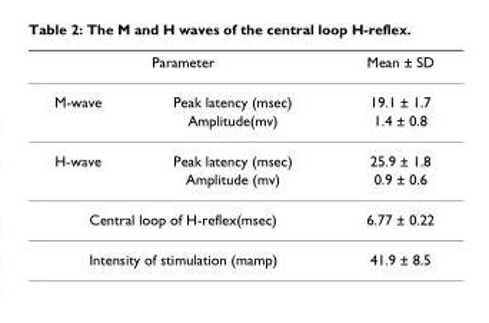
<table><thead><tr><td colspan="2">Parameter</td><td rowspan="2">Mean ± SD 19.1 ± 1.7</td></tr><tr><td>M-wave</td><td>Peak latency (msec)</td></tr></thead><tbody><tr><td></td><td>Amplitude(mv)</td><td>1.4 ± 0.8</td></tr><tr><td rowspan="2">H-wave</td><td>Peak latency (msec)</td><td>25.9 ± 1.8</td></tr><tr><td>Amplitude (mv)</td><td>0.9 ± 0.6</td></tr><tr><td colspan="2">Central loop of H-reflex(msec)</td><td>6.77 ± 0.22</td></tr><tr><td colspan="2">Intensity of stimulation (mamp)</td><td>41.9 ± 8.5</td></tr></tbody></table>